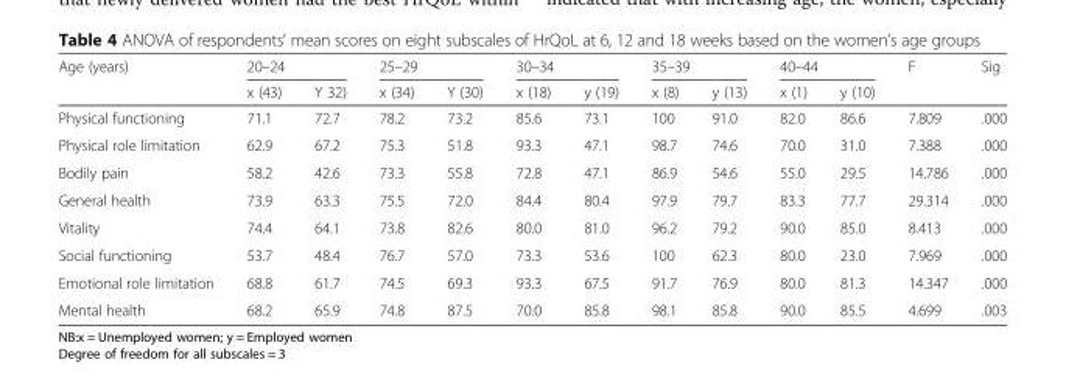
<table><thead><tr><td rowspan="2">Age (years)</td><td colspan="2">20–24</td><td colspan="2">25–29</td><td colspan="2">30–34</td><td colspan="2">35–39</td><td colspan="2">40–44</td><td rowspan="2">F</td><td rowspan="2">Sig</td></tr><tr><td>x (43)</td><td>Y 32)</td><td>x (34)</td><td>Y (30)</td><td>x (18)</td><td>y (19)</td><td>x (8)</td><td>y (13)</td><td>x (1)</td><td>y (10)</td></tr></thead><tbody><tr><td>Physical functioning</td><td>71.1</td><td>72.7</td><td>78.2</td><td>73.2</td><td>85.6</td><td>73.1</td><td>100</td><td>91.0</td><td>82.0</td><td>86.6</td><td>7.809</td><td>.000</td></tr><tr><td>Physical role limitation</td><td>62.9</td><td>67.2</td><td>75.3</td><td>51.8</td><td>93.3</td><td>47.1</td><td>98.7</td><td>74.6</td><td>70.0</td><td>31.0</td><td>7.388</td><td>.000</td></tr><tr><td>Bodily pain</td><td>58.2</td><td>42.6</td><td>73.3</td><td>55.8</td><td>72.8</td><td>47.1</td><td>86.9</td><td>54.6</td><td>55.0</td><td>29.5</td><td>14.786</td><td>.000</td></tr><tr><td>General health</td><td>73.9</td><td>63.3</td><td>75.5</td><td>72.0</td><td>84.4</td><td>80.4</td><td>97.9</td><td>79.7</td><td>83.3</td><td>77.7</td><td>29.314</td><td>.000</td></tr><tr><td>Vitality</td><td>74.4</td><td>64.1</td><td>73.8</td><td>82.6</td><td>80.0</td><td>81.0</td><td>96.2</td><td>79.2</td><td>90.0</td><td>85.0</td><td>8.413</td><td>.000</td></tr><tr><td>Social functioning</td><td>53.7</td><td>48.4</td><td>76.7</td><td>57.0</td><td>73.3</td><td>53.6</td><td>100</td><td>62.3</td><td>80.0</td><td>23.0</td><td>7.969</td><td>.000</td></tr><tr><td>Emotional role limitation</td><td>68.8</td><td>61.7</td><td>74.5</td><td>69.3</td><td>93.3</td><td>67.5</td><td>91.7</td><td>76.9</td><td>80.0</td><td>81.3</td><td>14.347</td><td>.000</td></tr><tr><td>Mental health</td><td>68.2</td><td>65.9</td><td>74.8</td><td>87.5</td><td>70.0</td><td>85.8</td><td>98.1</td><td>85.8</td><td>90.0</td><td>85.5</td><td>4.699</td><td>.003</td></tr></tbody></table>